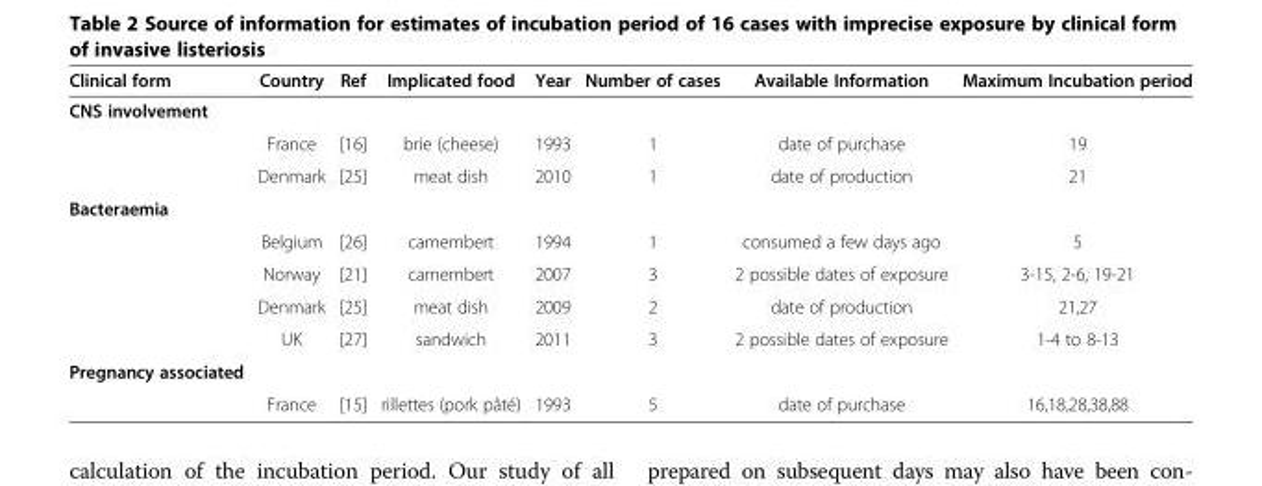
<table><thead><tr><td>Clinical form</td><td>Country</td><td>Ref</td><td>Implicated food</td><td>Year</td><td>Number of cases</td><td>Available Information</td><td>Maximum Incubation period</td></tr></thead><tbody><tr><td colspan="8">CNS involvement</td></tr><tr><td></td><td>France</td><td>[16]</td><td>brie (cheese)</td><td>1993</td><td>1</td><td>date of purchase</td><td>19</td></tr><tr><td></td><td>Denmark</td><td>[25]</td><td>meat dish</td><td>2010</td><td>1</td><td>date of production</td><td>21</td></tr><tr><td colspan="8">Bacteraemia</td></tr><tr><td></td><td>Belgium</td><td>[26]</td><td>camembert</td><td>1994</td><td>1</td><td>consumed a few days ago</td><td>5</td></tr><tr><td></td><td>Norway</td><td>[21]</td><td>camembert</td><td>2007</td><td>3</td><td>2 possible dates of exposure</td><td>3-15, 2-6, 19-21</td></tr><tr><td></td><td>Denmark</td><td>[25]</td><td>meat dish</td><td>2009</td><td>2</td><td>date of production</td><td>21,27</td></tr><tr><td></td><td>UK</td><td>[27]</td><td>sandwich</td><td>2011</td><td>3</td><td>2 possible dates of exposure</td><td>1-4 to 8-13</td></tr><tr><td colspan="8">Pregnancy associated</td></tr><tr><td></td><td>France</td><td>[15]</td><td>rillettes (pork pâté)</td><td>1993</td><td>5</td><td>date of purchase</td><td>16,18,28,38,88</td></tr></tbody></table>